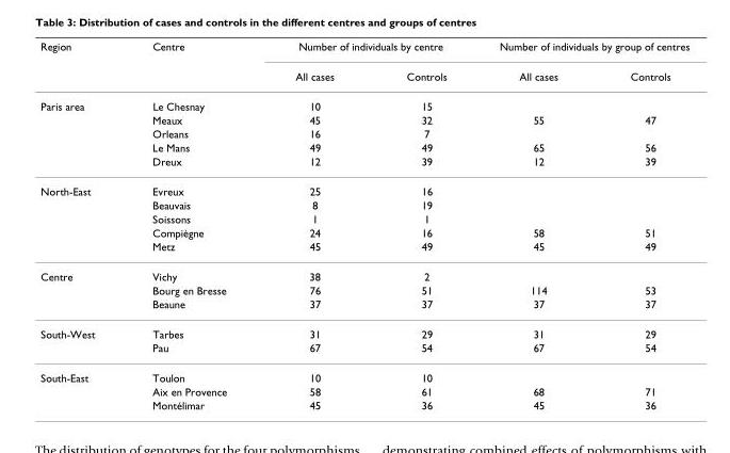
<table><thead><tr><td rowspan="2">Region</td><td rowspan="2">Centre</td><td colspan="2">Number of individuals by centre</td><td colspan="2">Number of individuals by group of centres</td></tr><tr><td>All cases</td><td>Controls</td><td>All cases</td><td>Controls</td></tr></thead><tbody><tr><td rowspan="5">Paris area</td><td>Le Chesnay</td><td>10</td><td>15</td><td></td><td></td></tr><tr><td>Meaux</td><td>45</td><td>32</td><td>55</td><td>47</td></tr><tr><td>Orleans</td><td>16</td><td>7</td><td></td><td></td></tr><tr><td>Le Mans</td><td>49</td><td>49</td><td>65</td><td>56</td></tr><tr><td>Dreux</td><td>12</td><td>39</td><td>12</td><td>39</td></tr><tr><td rowspan="5">North-East</td><td>Evreux</td><td>25</td><td>16</td><td></td><td></td></tr><tr><td>Beauvais</td><td>8</td><td>19</td><td></td><td></td></tr><tr><td>Soissons</td><td>1</td><td>1</td><td></td><td></td></tr><tr><td>Compiègne</td><td>24</td><td>16</td><td>58</td><td>51</td></tr><tr><td>Metz</td><td>45</td><td>49</td><td>45</td><td>49</td></tr><tr><td rowspan="3">Centre</td><td>Vichy</td><td>38</td><td>2</td><td></td><td></td></tr><tr><td>Bourg en Bresse</td><td>76</td><td>51</td><td>114</td><td>53</td></tr><tr><td>Beaune</td><td>37</td><td>37</td><td>37</td><td>37</td></tr><tr><td rowspan="2">South-West</td><td>Tarbes</td><td>31</td><td>29</td><td>31</td><td>29</td></tr><tr><td>Pau</td><td>67</td><td>54</td><td>67</td><td>54</td></tr><tr><td rowspan="3">South-East</td><td>Toulon</td><td>10</td><td>10</td><td></td><td></td></tr><tr><td>Aix en Provence</td><td>58</td><td>61</td><td>68</td><td>71</td></tr><tr><td>Montélimar</td><td>45</td><td>36</td><td>45</td><td>36</td></tr></tbody></table>